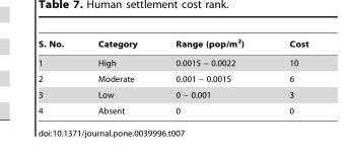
<table><thead><tr><td>S. No.</td><td>Category</td><td>Range (pop/m<sup>2</sup>)</td><td>Cost</td></tr></thead><tbody><tr><td>1</td><td>High</td><td>0.0015 – 0.0022</td><td>10</td></tr><tr><td>2</td><td>Moderate</td><td>0.001 – 0.0015</td><td>6</td></tr><tr><td>3</td><td>Low</td><td>0 – 0.001</td><td>3</td></tr><tr><td>4</td><td>Absent</td><td>0</td><td>0</td></tr></tbody></table>